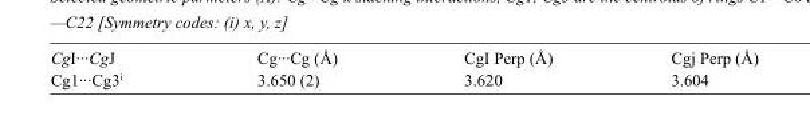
<table><tbody><tr><td>CgI···CgJ</td><td>Cg···Cg (Å)</td><td>CgI Perp (Å)</td><td>Cgj Perp (Å)</td></tr><tr><td>Cg1···Cg3<sup>i</sup></td><td>3.650 (2)</td><td>3.620</td><td>3.604</td></tr></tbody></table>